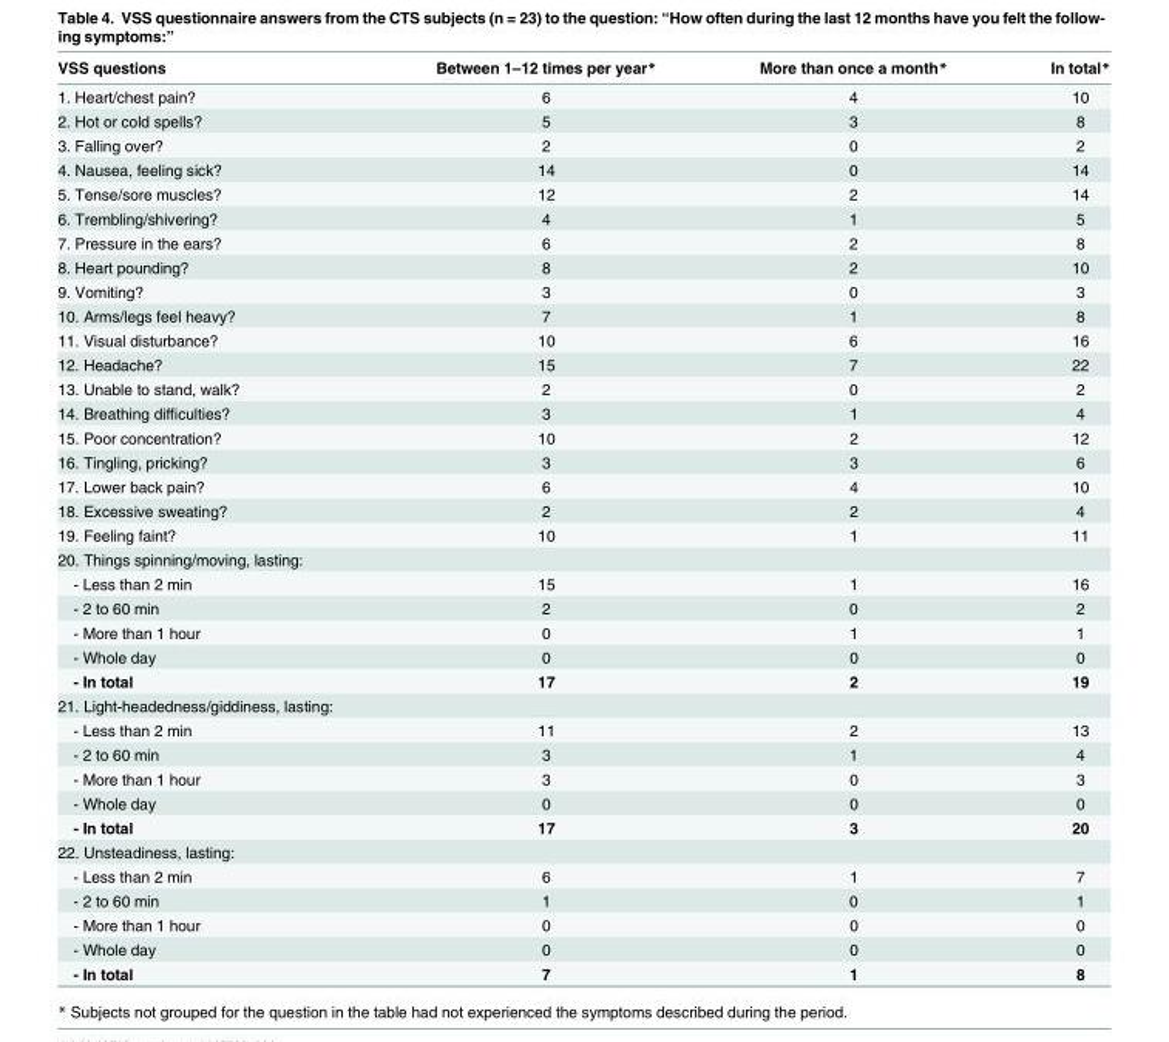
<table><thead><tr><td>VSS questions</td><td>Between 1–12 times per year*</td><td>More than once a month*</td><td>In total*</td></tr></thead><tbody><tr><td>1. Heart/chest pain?</td><td>6</td><td>4</td><td>10</td></tr><tr><td>2. Hot or cold spells?</td><td>5</td><td>3</td><td>8</td></tr><tr><td>3. Falling over?</td><td>2</td><td>0</td><td>2</td></tr><tr><td>4. Nausea, feeling sick?</td><td>14</td><td>0</td><td>14</td></tr><tr><td>5. Tense/sore muscles?</td><td>12</td><td>2</td><td>14</td></tr><tr><td>6. Trembling/shivering?</td><td>4</td><td>1</td><td>5</td></tr><tr><td>7. Pressure in the ears?</td><td>6</td><td>2</td><td>8</td></tr><tr><td>8. Heart pounding?</td><td>8</td><td>2</td><td>10</td></tr><tr><td>9. Vomiting?</td><td>3</td><td>0</td><td>3</td></tr><tr><td>10. Arms/legs feel heavy?</td><td>7</td><td>1</td><td>8</td></tr><tr><td>11. Visual disturbance?</td><td>10</td><td>6</td><td>16</td></tr><tr><td>12. Headache?</td><td>15</td><td>7</td><td>22</td></tr><tr><td>13. Unable to stand, walk?</td><td>2</td><td>0</td><td>2</td></tr><tr><td>14. Breathing difficulties?</td><td>3</td><td>1</td><td>4</td></tr><tr><td>15. Poor concentration?</td><td>10</td><td>2</td><td>12</td></tr><tr><td>16. Tingling, pricking?</td><td>3</td><td>3</td><td>6</td></tr><tr><td>17. Lower back pain?</td><td>6</td><td>4</td><td>10</td></tr><tr><td>18. Excessive sweating?</td><td>2</td><td>2</td><td>4</td></tr><tr><td>19. Feeling faint?</td><td>10</td><td>1</td><td>11</td></tr><tr><td colspan="4">20. Things spinning/moving, lasting:</td></tr><tr><td>- Less than 2 min</td><td>15</td><td>1</td><td>16</td></tr><tr><td>- 2 to 60 min</td><td>2</td><td>0</td><td>2</td></tr><tr><td>- More than 1 hour</td><td>0</td><td>1</td><td>1</td></tr><tr><td>- Whole day</td><td>0</td><td>0</td><td>0</td></tr><tr><td>- In total</td><td>17</td><td>2</td><td>19</td></tr><tr><td colspan="4">21. Light-headedness/giddiness, lasting:</td></tr><tr><td>- Less than 2 min</td><td>11</td><td>2</td><td>13</td></tr><tr><td>- 2 to 60 min</td><td>3</td><td>1</td><td>4</td></tr><tr><td>- More than 1 hour</td><td>3</td><td>0</td><td>3</td></tr><tr><td>- Whole day</td><td>0</td><td>0</td><td>0</td></tr><tr><td>- In total</td><td>17</td><td>3</td><td>20</td></tr><tr><td colspan="4">22. Unsteadiness, lasting:</td></tr><tr><td>- Less than 2 min</td><td>6</td><td>1</td><td>7</td></tr><tr><td>- 2 to 60 min</td><td>1</td><td>0</td><td>1</td></tr><tr><td>- More than 1 hour</td><td>0</td><td>0</td><td>0</td></tr><tr><td>- Whole day</td><td>0</td><td>0</td><td>0</td></tr><tr><td>- In total</td><td>7</td><td>1</td><td>8</td></tr></tbody></table>